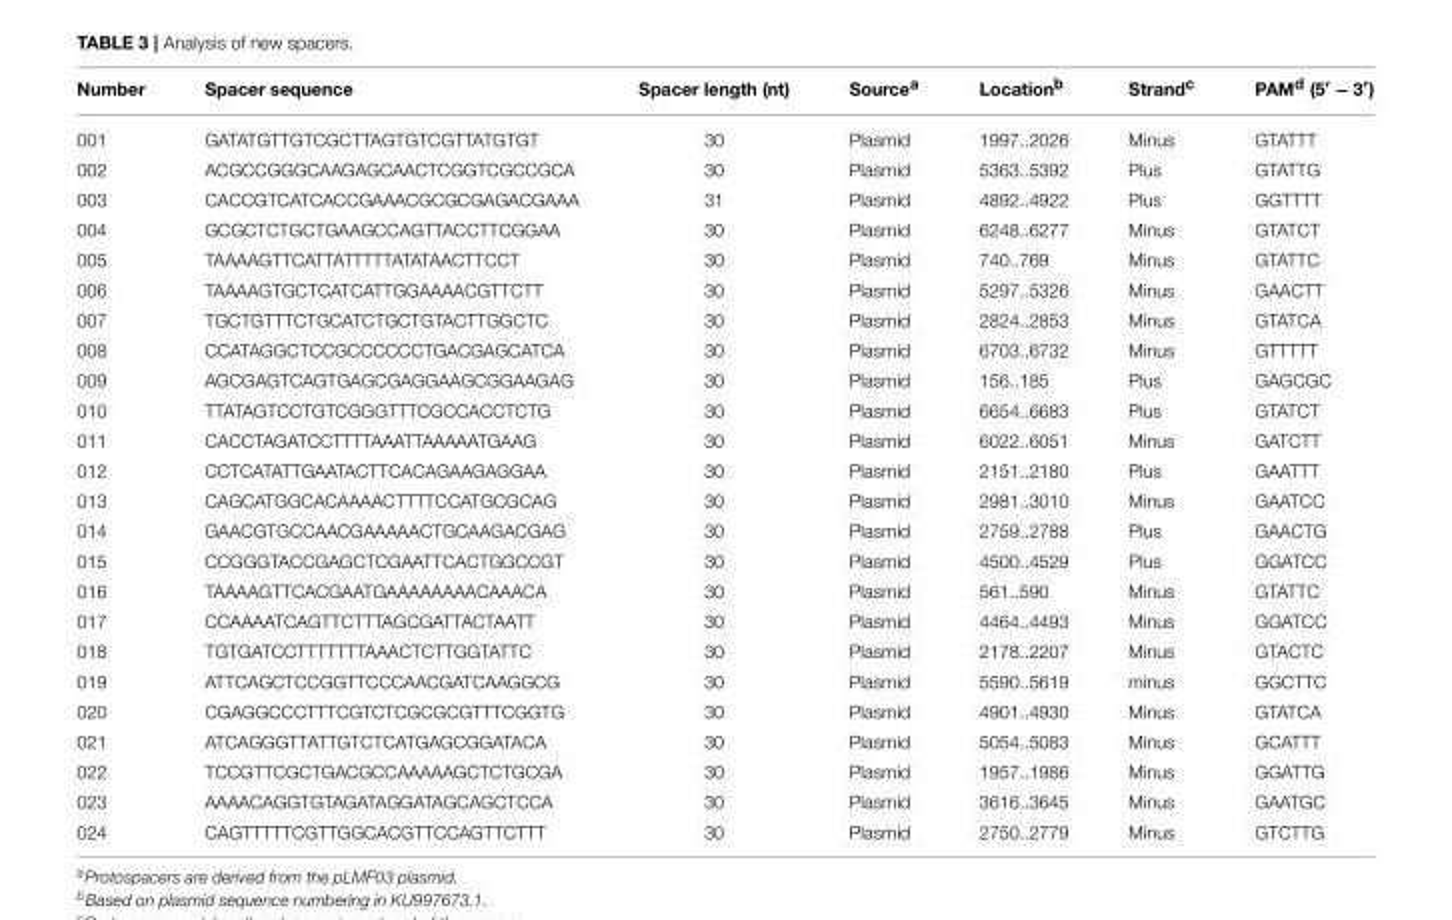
<table><thead><tr><td>Number</td><td>Spacer sequence</td><td>Spacer length (nt)</td><td>Source<sup>a</sup></td><td>Location<sup>b</sup></td><td>Strand<sup>c</sup></td><td>PAM<sup>d</sup> (5′ − 3′)</td></tr></thead><tbody><tr><td>001</td><td>GATATGTTGTCGCTTAGTGTCGTTATGTGT</td><td>30</td><td>Plasmid</td><td>1997..2026</td><td>Minus</td><td>GTATTT</td></tr><tr><td>002</td><td>ACGCCGGGCAAGAGCAACTCGGTCGCCGCA</td><td>30</td><td>Plasmid</td><td>5363..5392</td><td>Plus</td><td>GTATTG</td></tr><tr><td>003</td><td>CACCGTCATCACCGAAACGCGCGAGACGAAA</td><td>31</td><td>Plasmid</td><td>4892..4922</td><td>Plus</td><td>GGTTTT</td></tr><tr><td>004</td><td>GCGCTCTGCTGAAGCCAGTTACCTTCGGAA</td><td>30</td><td>Plasmid</td><td>6248..6277</td><td>Minus</td><td>GTATCT</td></tr><tr><td>005</td><td>TAAAAGTTCATTATTTTTATATAACTTCCT</td><td>30</td><td>Plasmid</td><td>740..769</td><td>Minus</td><td>GTATTC</td></tr><tr><td>006</td><td>TAAAAGTGCTCATCATTGGAAAACGTTCTT</td><td>30</td><td>Plasmid</td><td>5297..5326</td><td>Minus</td><td>GAACTT</td></tr><tr><td>007</td><td>TGCTGTTTCTGCATCTGCTGTACTTGGCTC</td><td>30</td><td>Plasmid</td><td>2824..2853</td><td>Minus</td><td>GTATCA</td></tr><tr><td>008</td><td>CCATAGGCTCCGCCCCCCTGACGAGCATCA</td><td>30</td><td>Plasmid</td><td>6703..6732</td><td>Minus</td><td>GTTTTT</td></tr><tr><td>009</td><td>AGCGAGTCAGTGAGCGAGGAAGCGGAAGAG</td><td>30</td><td>Plasmid</td><td>156..185</td><td>Plus</td><td>GAGCGC</td></tr><tr><td>010</td><td>TTATAGTCCTGTCGGGTTTCGCCACCTCTG</td><td>30</td><td>Plasmid</td><td>6654..6683</td><td>Plus</td><td>GTATCT</td></tr><tr><td>011</td><td>CACCTAGATCCTTTTAAATTAAAAATGAAG</td><td>30</td><td>Plasmid</td><td>6022..6051</td><td>Minus</td><td>GATCTT</td></tr><tr><td>012</td><td>CCTCATATTGAATACTTCACAGAAGAGGAA</td><td>30</td><td>Plasmid</td><td>2151..2180</td><td>Plus</td><td>GAATTT</td></tr><tr><td>013</td><td>CAGCATGGCACAAAACTTTTCCATGCGCAG</td><td>30</td><td>Plasmid</td><td>2981..3010</td><td>Minus</td><td>GAATCC</td></tr><tr><td>014</td><td>GAACGTGCCAACGAAAAACTGCAAGACGAG</td><td>30</td><td>Plasmid</td><td>2759..2788</td><td>Plus</td><td>GAACTG</td></tr><tr><td>015</td><td>CCGGGTACCGAGCTCGAATTCACTGGCCGT</td><td>30</td><td>Plasmid</td><td>4500..4529</td><td>Plus</td><td>GGATCC</td></tr><tr><td>016</td><td>TAAAAGTTCACGAATGAAAAAAAACAAACA</td><td>30</td><td>Plasmid</td><td>561..590</td><td>Minus</td><td>GTATTC</td></tr><tr><td>017</td><td>CCAAAATCAGTTCTTTAGCGATTACTAATT</td><td>30</td><td>Plasmid</td><td>4464..4493</td><td>Minus</td><td>GGATCC</td></tr><tr><td>018</td><td>TGTGATCCTTTTTTTAAACTCTTGGTATTC</td><td>30</td><td>Plasmid</td><td>2178..2207</td><td>Minus</td><td>GTACTC</td></tr><tr><td>019</td><td>ATTCAGCTCCGGTTCCCAACGATCAAGGCG</td><td>30</td><td>Plasmid</td><td>5590..5619</td><td>minus</td><td>GGCTTC</td></tr><tr><td>020</td><td>CGAGGCCCTTTCGTCTCGCGCGTTTCGGTG</td><td>30</td><td>Plasmid</td><td>4901..4930</td><td>Minus</td><td>GTATCA</td></tr><tr><td>021</td><td>ATCAGGGTTATTGTCTCATGAGCGGATACA</td><td>30</td><td>Plasmid</td><td>5054..5083</td><td>Minus</td><td>GCATTT</td></tr><tr><td>022</td><td>TCCGTTCGCTGACGCCAAAAAGCTCTGCGA</td><td>30</td><td>Plasmid</td><td>1957..1986</td><td>Minus</td><td>GGATTG</td></tr><tr><td>023</td><td>AAAACAGGTGTAGATAGGATAGCAGCTCCA</td><td>30</td><td>Plasmid</td><td>3616..3645</td><td>Minus</td><td>GAATGC</td></tr><tr><td>024</td><td>CAGTTTTTCGTTGGCACGTTCCAGTTCTTT</td><td>30</td><td>Plasmid</td><td>2750..2779</td><td>Minus</td><td>GTCTTG</td></tr></tbody></table>